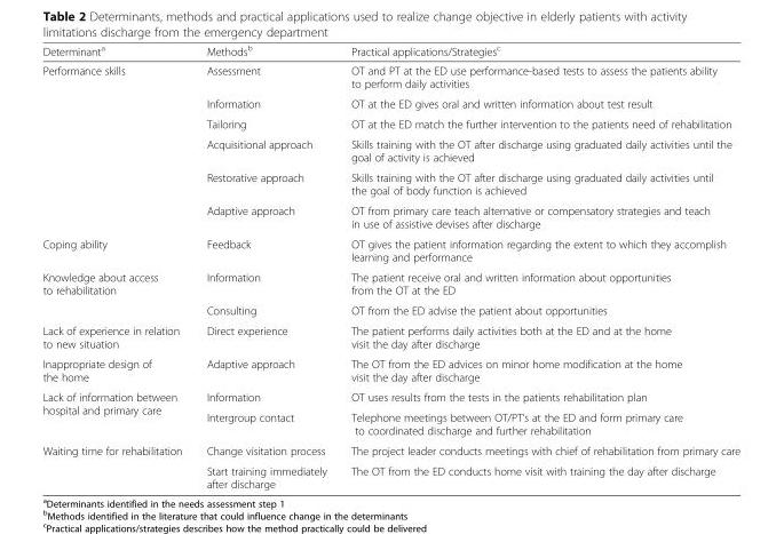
<table><thead><tr><td>Determinant<sup>a</sup></td><td>Methods<sup>b</sup></td><td>Practical applications/Strategies<sup>c</sup></td></tr></thead><tbody><tr><td rowspan="6">Performance skills</td><td>Assessment</td><td>OT and PT at the ED use performance-based tests to assess the patients ability to perform daily activities</td></tr><tr><td>Information</td><td>OT at the ED gives oral and written information about test result</td></tr><tr><td>Tailoring</td><td>OT at the ED match the further intervention to the patients need of rehabilitation</td></tr><tr><td>Acquisitional approach</td><td>Skills training with the OT after discharge using graduated daily activities until the goal of activity is achieved</td></tr><tr><td>Restorative approach</td><td>Skills training with the OT after discharge using graduated daily activities until the goal of body function is achieved</td></tr><tr><td>Adaptive approach</td><td>OT from primary care teach alternative or compensatory strategies and teach in use of assistive devises after discharge</td></tr><tr><td>Coping ability</td><td>Feedback</td><td>OT gives the patient information regarding the extent to which they accomplish learning and performance</td></tr><tr><td rowspan="2">Knowledge about access to rehabilitation</td><td>Information</td><td>The patient receive oral and written information about opportunities from the OT at the ED</td></tr><tr><td>Consulting</td><td>OT from the ED advise the patient about opportunities</td></tr><tr><td>Lack of experience in relation to new situation</td><td>Direct experience</td><td>The patient performs daily activities both at the ED and at the home visit the day after discharge</td></tr><tr><td>Inappropriate design of the home</td><td>Adaptive approach</td><td>The OT from the ED advices on minor home modification at the home visit the day after discharge</td></tr><tr><td rowspan="2">Lack of information between hospital and primary care</td><td>Information</td><td>OT uses results from the tests in the patients rehabilitation plan</td></tr><tr><td>Intergroup contact</td><td>Telephone meetings between OT/PT’s at the ED and form primary care to coordinated discharge and further rehabilitation</td></tr><tr><td rowspan="2">Waiting time for rehabilitation</td><td>Change visitation process</td><td>The project leader conducts meetings with chief of rehabilitation from primary care</td></tr><tr><td>Start training immediately after discharge</td><td>The OT from the ED conducts home visit with training the day after discharge</td></tr></tbody></table>